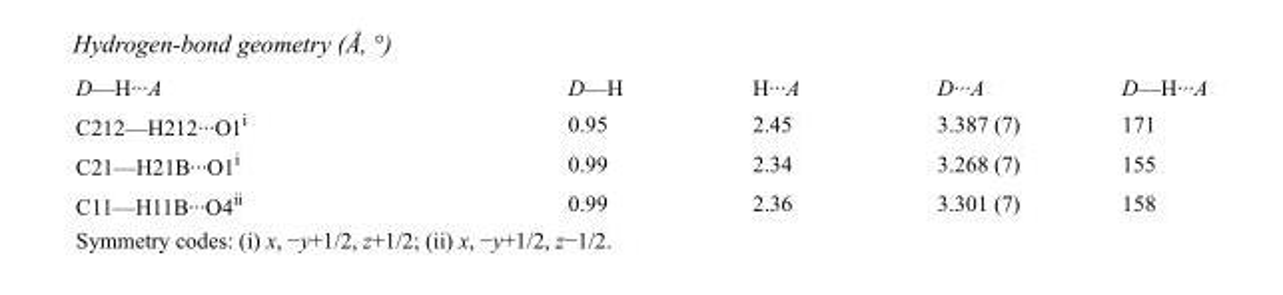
<table><tbody><tr><td>D—H···A</td><td>D—H</td><td>H···A</td><td>D···A</td><td>D—H···A</td></tr><tr><td>C212—H212···O1<sup>i</sup></td><td>0.95</td><td>2.45</td><td>3.387 (7)</td><td>171</td></tr><tr><td>C21—H21B···O1<sup>i</sup></td><td>0.99</td><td>2.34</td><td>3.268 (7)</td><td>155</td></tr><tr><td>C11—H11B···O4<sup>ii</sup></td><td>0.99</td><td>2.36</td><td>3.301 (7)</td><td>158</td></tr></tbody></table>